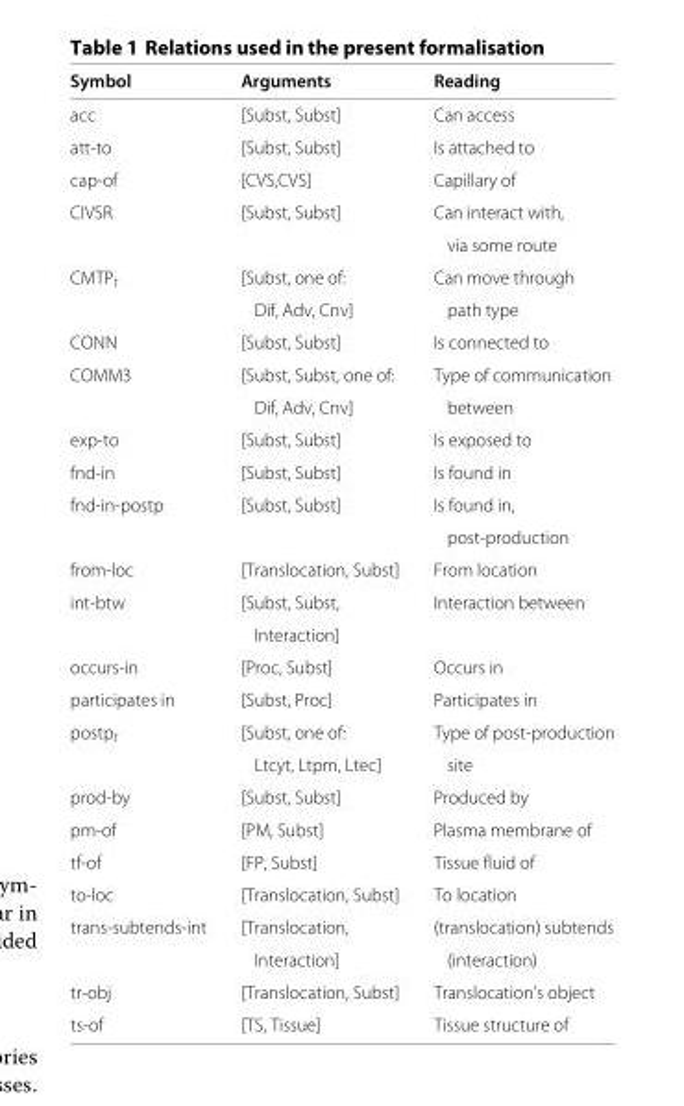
<table><thead><tr><td>Symbol</td><td>Arguments</td><td>Reading</td></tr></thead><tbody><tr><td>acc</td><td>[Subst, Subst]</td><td>Can access</td></tr><tr><td>att-to</td><td>[Subst, Subst]</td><td>Is attached to</td></tr><tr><td>cap-of</td><td>[CVS,CVS]</td><td>Capillary of</td></tr><tr><td rowspan="2">CIVSR</td><td>[Subst, Subst]</td><td>Can interact with,</td></tr><tr><td></td><td>via some route</td></tr><tr><td rowspan="2">CMTP<sub>t</sub></td><td>[Subst, one of:</td><td>Can move through</td></tr><tr><td>Dif, Adv, Cnv]</td><td>path type</td></tr><tr><td>CONN</td><td>[Subst, Subst]</td><td>Is connected to</td></tr><tr><td rowspan="2">COMM3</td><td>[Subst, Subst, one of:</td><td>Type of communication</td></tr><tr><td>Dif, Adv, Cnv]</td><td>between</td></tr><tr><td>exp-to</td><td>[Subst, Subst]</td><td>Is exposed to</td></tr><tr><td>fnd-in</td><td>[Subst, Subst]</td><td>Is found in</td></tr><tr><td rowspan="2">fnd-in-postp</td><td>[Subst, Subst]</td><td>Is found in,</td></tr><tr><td></td><td>post-production</td></tr><tr><td>from-loc</td><td>[Translocation, Subst]</td><td>From location</td></tr><tr><td rowspan="2">int-btw</td><td>[Subst, Subst,</td><td>Interaction between</td></tr><tr><td>Interaction]</td><td></td></tr><tr><td>occurs-in</td><td>[Proc, Subst]</td><td>Occurs in</td></tr><tr><td>participates in</td><td>[Subst, Proc]</td><td>Participates in</td></tr><tr><td rowspan="2">postp<sub>t</sub></td><td>[Subst, one of:</td><td>Type of post-production</td></tr><tr><td>Ltcyt, Ltpm, Ltec]</td><td>site</td></tr><tr><td>prod-by</td><td>[Subst, Subst]</td><td>Produced by</td></tr><tr><td>pm-of</td><td>[PM, Subst]</td><td>Plasma membrane of</td></tr><tr><td>tf-of</td><td>[FP, Subst]</td><td>Tissue fluid of</td></tr><tr><td>to-loc</td><td>[Translocation, Subst]</td><td>To location</td></tr><tr><td rowspan="2">trans-subtends-int</td><td>[Translocation,</td><td>(translocation) subtends</td></tr><tr><td>Interaction]</td><td>(interaction)</td></tr><tr><td>tr-obj</td><td>[Translocation, Subst]</td><td>Translocation’s object</td></tr><tr><td>ts-of</td><td>[TS, Tissue]</td><td>Tissue structure of</td></tr></tbody></table>